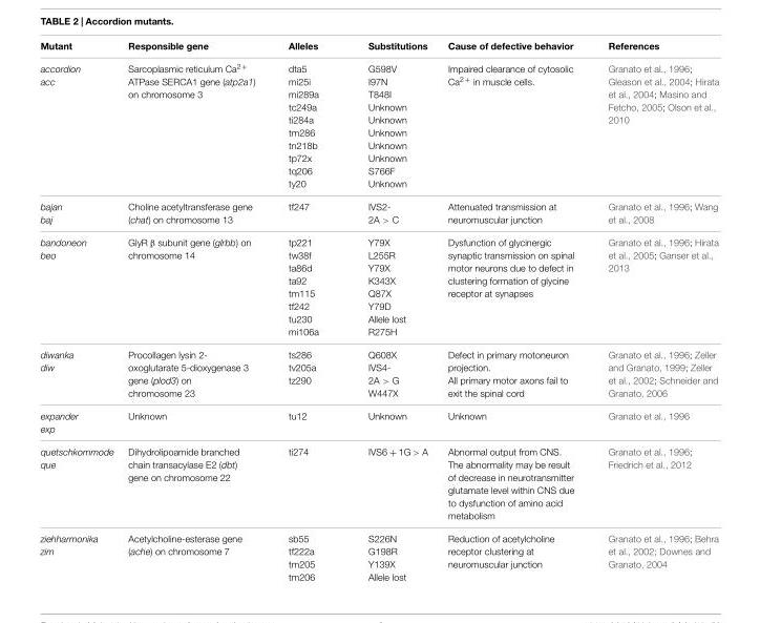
<table><thead><tr><td>Mutant</td><td>Responsible gene</td><td>Alleles</td><td>Substitutions</td><td>Cause of defective behavior</td><td>References</td></tr></thead><tbody><tr><td>accordion acc</td><td>Sarcoplasmic reticulum Ca<sup>2+</sup> ATPase SERCA1 gene (atp2a1) on chromosome 3</td><td>dta5 mi25i mi289a tc249a ti284a tm286 tn218b tp72x tq206 ty20</td><td>G598V I97N T848I Unknown Unknown Unknown Unknown Unknown S766F Unknown</td><td>Impaired clearance of cytosolic Ca<sup>2+</sup> in muscle cells.</td><td>Granato et al., 1996; Gleason et al., 2004; Hirata et al., 2004; Masino and Fetcho, 2005; Olson et al., 2010</td></tr><tr><td>bajan baj</td><td>Choline acetyltransferase gene (chat) on chromosome 13</td><td>tf247</td><td>IVS2- 2A &gt; C</td><td>Attenuated transmission at neuromuscular junction</td><td>Granato et al., 1996; Wang et al., 2008</td></tr><tr><td>bandoneon beo</td><td>GlyR β subunit gene (glrbb) on chromosome 14</td><td>tp221 tw38f ta86d ta92 tm115 tf242 tu230 mi106a</td><td>Y79X L255R Y79X K343X Q87X Y79D Allele lost R275H</td><td>Dysfunction of glycinergic synaptic transmission on spinal motor neurons due to defect in clustering formation of glycine receptor at synapses</td><td>Granato et al., 1996; Hirata et al., 2005; Ganser et al., 2013</td></tr><tr><td>diwanka diw</td><td>Procollagen lysin 2- oxoglutarate 5-dioxygenase 3 gene (plod3) on chromosome 23</td><td>ts286 tv205a tz290</td><td>Q608X IVS4- 2A &gt; G W447X</td><td>Defect in primary motoneuron projection. All primary motor axons fail to exit the spinal cord</td><td>Granato et al., 1996; Zeller and Granato, 1999; Zeller et al., 2002; Schneider and Granato, 2006</td></tr><tr><td>expander exp</td><td>Unknown</td><td>tu12</td><td>Unknown</td><td>Unknown</td><td>Granato et al., 1996</td></tr><tr><td>quetschkommode que</td><td>Dihydrolipoamide branched chain transacylase E2 (dbt) gene on chromosome 22</td><td>ti274</td><td>IVS6 + 1G &gt; A</td><td>Abnormal output from CNS. The abnormality may be result of decrease in neurotransmitter glutamate level within CNS due to dysfunction of amino acid metabolism</td><td>Granato et al., 1996; Friedrich et al., 2012</td></tr><tr><td>ziehharmonika zim</td><td>Acetylcholine-esterase gene (ache) on chromosome 7</td><td>sb55 tf222a tm205 tm206</td><td>S226N G198R Y139X Allele lost</td><td>Reduction of acetylcholine receptor clustering at neuromuscular junction</td><td>Granato et al., 1996; Behra et al., 2002; Downes and Granato, 2004</td></tr></tbody></table>